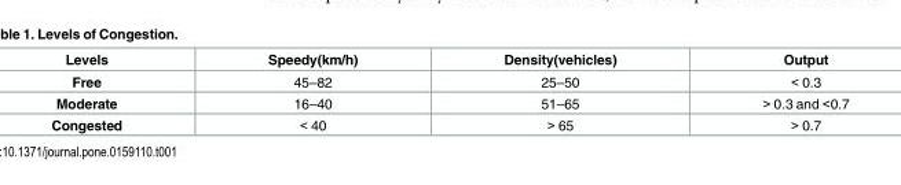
<table><thead><tr><td>Levels</td><td>Speedy(km/h)</td><td>Density(vehicles)</td><td>Output</td></tr></thead><tbody><tr><td>Free</td><td>45–82</td><td>25–50</td><td>&lt; 0.3</td></tr><tr><td>Moderate</td><td>16–40</td><td>51–65</td><td>&gt; 0.3 and &lt;0.7</td></tr><tr><td>Congested</td><td>&lt; 40</td><td>&gt; 65</td><td>&gt; 0.7</td></tr></tbody></table>